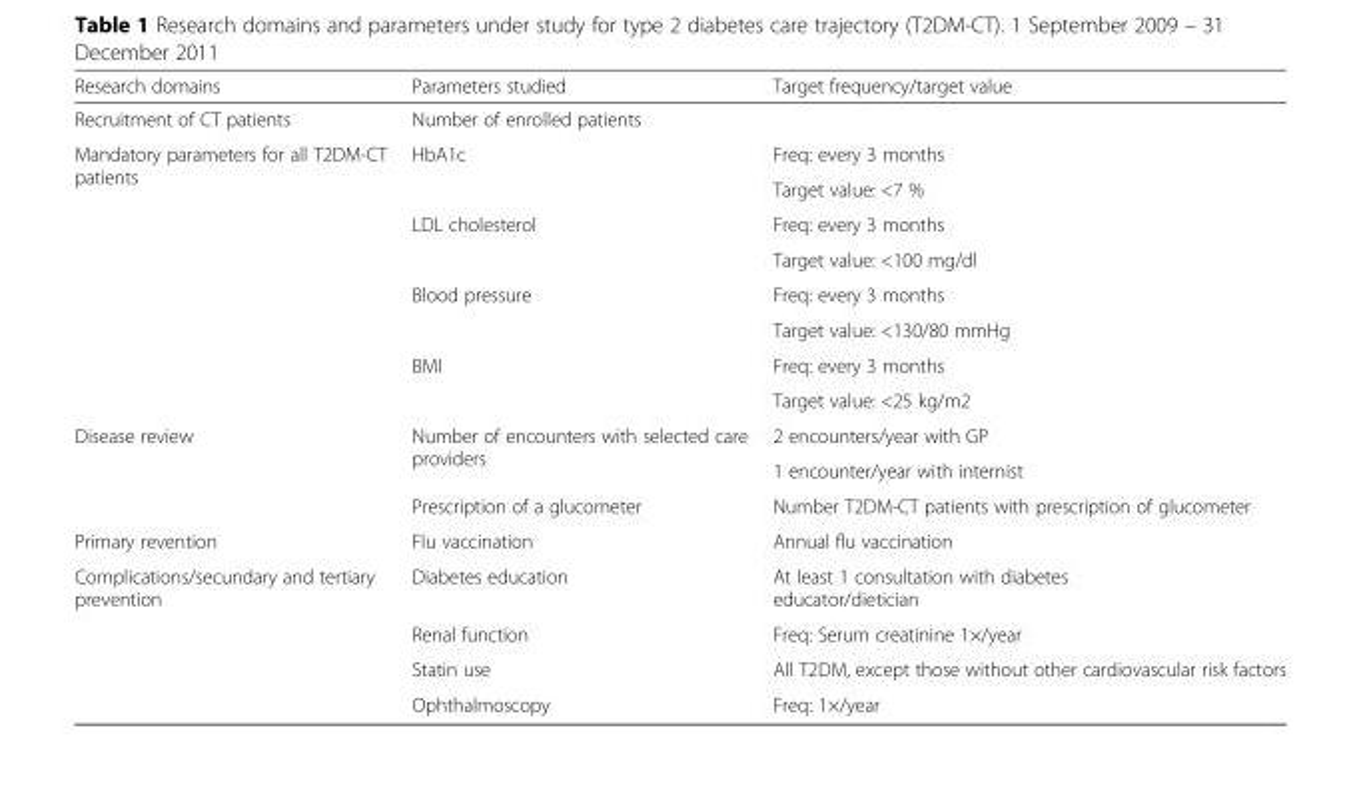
<table><thead><tr><td>Research domains</td><td>Parameters studied</td><td>Target frequency/target value</td></tr></thead><tbody><tr><td>Recruitment of CT patients</td><td>Number of enrolled patients</td><td></td></tr><tr><td rowspan="8">Mandatory parameters for all T2DM-CT patients</td><td>HbA1c</td><td>Freq: every 3 months</td></tr><tr><td></td><td>Target value: &lt;7 %</td></tr><tr><td>LDL cholesterol</td><td>Freq: every 3 months</td></tr><tr><td></td><td>Target value: &lt;100 mg/dl</td></tr><tr><td>Blood pressure</td><td>Freq: every 3 months</td></tr><tr><td></td><td>Target value: &lt;130/80 mmHg</td></tr><tr><td rowspan="2">BMI</td><td>Freq: every 3 months</td></tr><tr><td>Target value: &lt;25 kg/m2</td></tr><tr><td rowspan="3">Disease review</td><td rowspan="2">Number of encounters with selected care providers</td><td>2 encounters/year with GP</td></tr><tr><td>1 encounter/year with internist</td></tr><tr><td>Prescription of a glucometer</td><td>Number T2DM-CT patients with prescription of glucometer</td></tr><tr><td>Primary revention</td><td>Flu vaccination</td><td>Annual flu vaccination</td></tr><tr><td rowspan="4">Complications/secundary and tertiary prevention</td><td>Diabetes education</td><td>At least 1 consultation with diabetes educator/dietician</td></tr><tr><td>Renal function</td><td>Freq: Serum creatinine 1×/year</td></tr><tr><td>Statin use</td><td>All T2DM, except those without other cardiovascular risk factors</td></tr><tr><td>Ophthalmoscopy</td><td>Freq: 1×/year</td></tr></tbody></table>